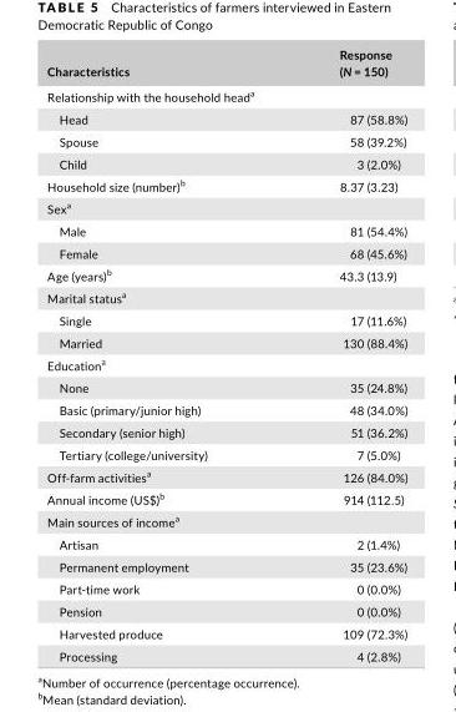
<table><thead><tr><td>Characteristics</td><td>Response (N = 150)</td></tr></thead><tbody><tr><td colspan="2">Relationship with the household head<sup>a</sup></td></tr><tr><td>Head</td><td>87 (58.8%)</td></tr><tr><td>Spouse</td><td>58 (39.2%)</td></tr><tr><td>Child</td><td>3 (2.0%)</td></tr><tr><td>Household size (number)<sup>b</sup></td><td>8.37 (3.23)</td></tr><tr><td colspan="2">Sex<sup>a</sup></td></tr><tr><td>Male</td><td>81 (54.4%)</td></tr><tr><td>Female</td><td>68 (45.6%)</td></tr><tr><td>Age (years)<sup>b</sup></td><td>43.3 (13.9)</td></tr><tr><td colspan="2">Marital status<sup>a</sup></td></tr><tr><td>Single</td><td>17 (11.6%)</td></tr><tr><td>Married</td><td>130 (88.4%)</td></tr><tr><td colspan="2">Education<sup>a</sup></td></tr><tr><td>None</td><td>35 (24.8%)</td></tr><tr><td>Basic (primary/junior high)</td><td>48 (34.0%)</td></tr><tr><td>Secondary (senior high)</td><td>51 (36.2%)</td></tr><tr><td>Tertiary (college/university)</td><td>7 (5.0%)</td></tr><tr><td>Off- farm activities<sup>a</sup></td><td>126 (84.0%)</td></tr><tr><td>Annual income (US$)<sup>b</sup></td><td>914 (112.5)</td></tr><tr><td colspan="2">Main sources of income<sup>a</sup></td></tr><tr><td>Artisan</td><td>2 (1.4%)</td></tr><tr><td>Permanent employment</td><td>35 (23.6%)</td></tr><tr><td>Part- time work</td><td>0 (0.0%)</td></tr><tr><td>Pension</td><td>0 (0.0%)</td></tr><tr><td>Harvested produce</td><td>109 (72.3%)</td></tr><tr><td>Processing</td><td>4 (2.8%)</td></tr></tbody></table>